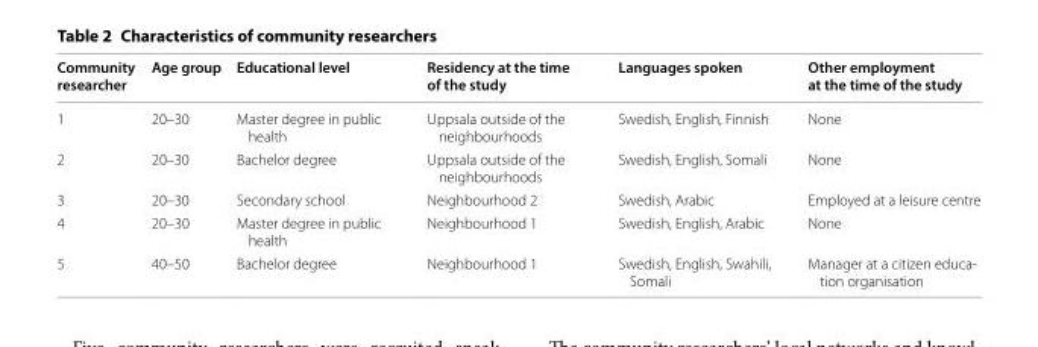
<table><thead><tr><td>Community researcher</td><td>Age group</td><td>Educational level</td><td>Residency at the time of the study</td><td>Languages spoken</td><td>Other employment at the time of the study</td></tr></thead><tbody><tr><td>1</td><td>20–30</td><td>Master degree in public health</td><td>Uppsala outside of the neighbourhoods</td><td>Swedish, English, Finnish</td><td>None</td></tr><tr><td>2</td><td>20–30</td><td>Bachelor degree</td><td>Uppsala outside of the neighbourhoods</td><td>Swedish, English, Somali</td><td>None</td></tr><tr><td>3</td><td>20–30</td><td>Secondary school</td><td>Neighbourhood 2</td><td>Swedish, Arabic</td><td>Employed at a leisure centre</td></tr><tr><td>4</td><td>20–30</td><td>Master degree in public health</td><td>Neighbourhood 1</td><td>Swedish, English, Arabic</td><td>None</td></tr><tr><td>5</td><td>40–50</td><td>Bachelor degree</td><td>Neighbourhood 1</td><td>Swedish, English, Swahili, Somali</td><td>Manager at a citizen educa- tion organisation</td></tr></tbody></table>